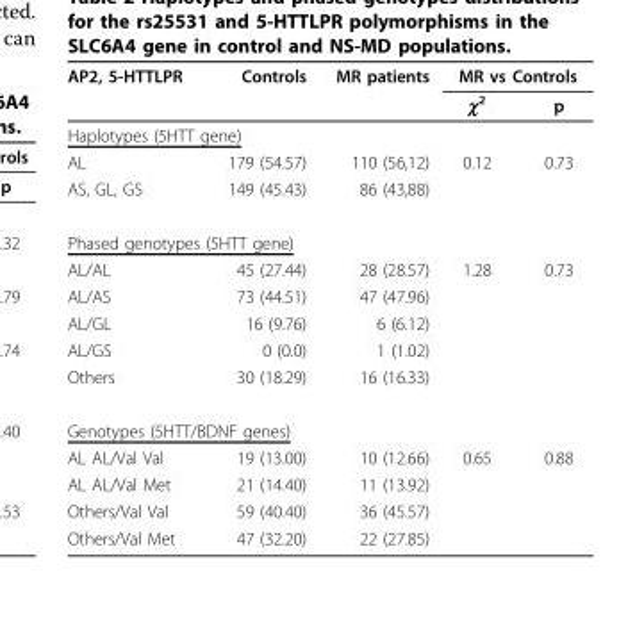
<table><thead><tr><td rowspan="2">AP2, 5-HTTLPR</td><td rowspan="2">Controls</td><td rowspan="2">MR patients</td><td colspan="2">MR vs Controls</td></tr><tr><td>χ<sup>2</sup></td><td>p</td></tr></thead><tbody><tr><td colspan="5">Haplotypes (5HTT gene)</td></tr><tr><td>AL</td><td>179 (54.57)</td><td>110 (56,12)</td><td>0.12</td><td>0.73</td></tr><tr><td>AS, GL, GS</td><td>149 (45.43)</td><td>86 (43,88)</td><td></td><td></td></tr><tr><td colspan="5">Phased genotypes (5HTT gene)</td></tr><tr><td>AL/AL</td><td>45 (27.44)</td><td>28 (28.57)</td><td>1.28</td><td>0.73</td></tr><tr><td>AL/AS</td><td>73 (44.51)</td><td>47 (47.96)</td><td></td><td></td></tr><tr><td>AL/GL</td><td>16 (9.76)</td><td>6 (6.12)</td><td></td><td></td></tr><tr><td>AL/GS</td><td>0 (0.0)</td><td>1 (1.02)</td><td></td><td></td></tr><tr><td>Others</td><td>30 (18.29)</td><td>16 (16.33)</td><td></td><td></td></tr><tr><td colspan="5">Genotypes (5HTT/BDNF genes)</td></tr><tr><td>AL AL/Val Val</td><td>19 (13.00)</td><td>10 (12.66)</td><td>0.65</td><td>0.88</td></tr><tr><td>AL AL/Val Met</td><td>21 (14.40)</td><td>11 (13.92)</td><td></td><td></td></tr><tr><td>Others/Val Val</td><td>59 (40.40)</td><td>36 (45.57)</td><td></td><td></td></tr><tr><td>Others/Val Met</td><td>47 (32.20)</td><td>22 (27.85)</td><td></td><td></td></tr></tbody></table>